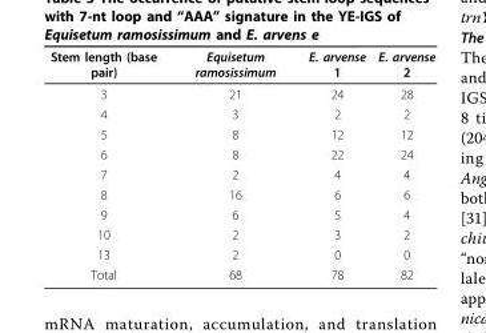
<table><thead><tr><td>Stem length (base pair)</td><td>Equisetum ramosissimum</td><td>E. arvense 1</td><td>E. arvense 2</td></tr></thead><tbody><tr><td>3</td><td>21</td><td>24</td><td>28</td></tr><tr><td>4</td><td>3</td><td>2</td><td>2</td></tr><tr><td>5</td><td>8</td><td>12</td><td>12</td></tr><tr><td>6</td><td>8</td><td>22</td><td>24</td></tr><tr><td>7</td><td>2</td><td>4</td><td>4</td></tr><tr><td>8</td><td>16</td><td>6</td><td>6</td></tr><tr><td>9</td><td>6</td><td>5</td><td>4</td></tr><tr><td>10</td><td>2</td><td>3</td><td>2</td></tr><tr><td>13</td><td>2</td><td>0</td><td>0</td></tr><tr><td>Total</td><td>68</td><td>78</td><td>82</td></tr></tbody></table>